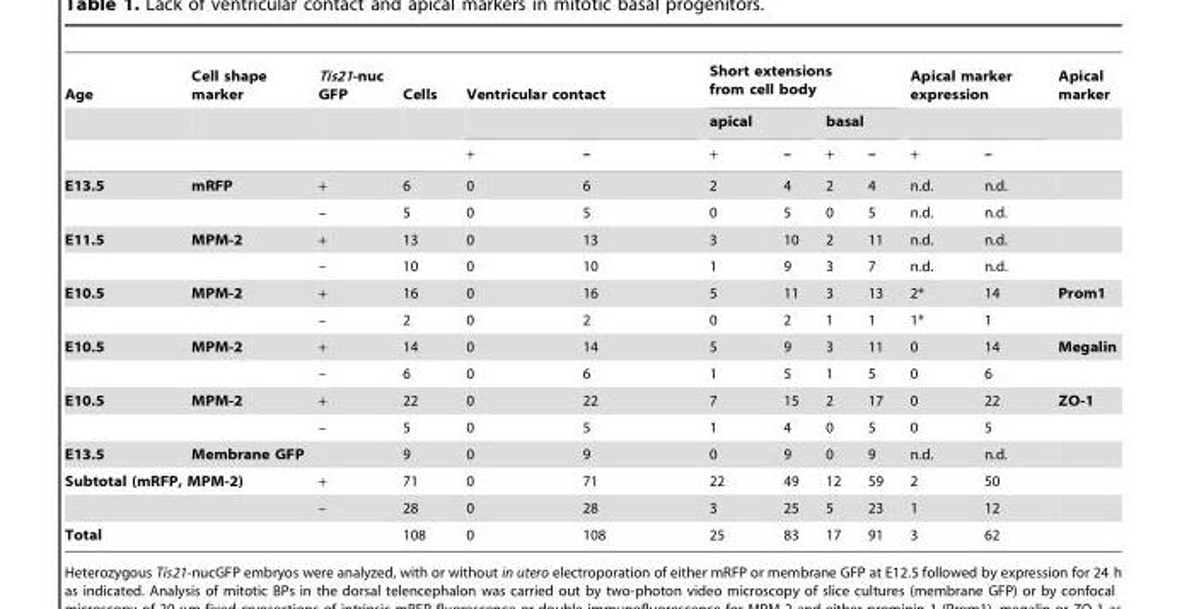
<table><thead><tr><td rowspan="3">Age</td><td rowspan="3">Cell shape marker</td><td rowspan="3">Tis21-nuc GFP</td><td rowspan="3">Cells</td><td colspan="2">Ventricular contact</td><td colspan="4">Short extensions from cell body</td><td colspan="2">Apical marker expression</td><td rowspan="3">Apical marker</td></tr><tr><td rowspan="2">+</td><td rowspan="2">–</td><td colspan="2">apical</td><td colspan="2">basal</td><td rowspan="2">+</td><td rowspan="2">–</td></tr><tr><td>+</td><td>–</td><td>+</td><td>–</td></tr></thead><tbody><tr><td rowspan="2">E13.5</td><td>mRFP</td><td>+</td><td>6</td><td>0</td><td>6</td><td>2</td><td>4</td><td>2</td><td>4</td><td>n.d.</td><td>n.d.</td><td></td></tr><tr><td></td><td>–</td><td>5</td><td>0</td><td>5</td><td>0</td><td>5</td><td>0</td><td>5</td><td>n.d.</td><td>n.d.</td><td></td></tr><tr><td rowspan="2">E11.5</td><td>MPM-2</td><td>+</td><td>13</td><td>0</td><td>13</td><td>3</td><td>10</td><td>2</td><td>11</td><td>n.d.</td><td>n.d.</td><td></td></tr><tr><td></td><td>–</td><td>10</td><td>0</td><td>10</td><td>1</td><td>9</td><td>3</td><td>7</td><td>n.d.</td><td>n.d.</td><td></td></tr><tr><td rowspan="2">E10.5</td><td>MPM-2</td><td>+</td><td>16</td><td>0</td><td>16</td><td>5</td><td>11</td><td>3</td><td>13</td><td>2*</td><td>14</td><td>Prom1</td></tr><tr><td></td><td>–</td><td>2</td><td>0</td><td>2</td><td>0</td><td>2</td><td>1</td><td>1</td><td>1*</td><td>1</td><td></td></tr><tr><td rowspan="2">E10.5</td><td>MPM-2</td><td>+</td><td>14</td><td>0</td><td>14</td><td>5</td><td>9</td><td>3</td><td>11</td><td>0</td><td>14</td><td>Megalin</td></tr><tr><td></td><td>–</td><td>6</td><td>0</td><td>6</td><td>1</td><td>5</td><td>1</td><td>5</td><td>0</td><td>6</td><td></td></tr><tr><td rowspan="2">E10.5</td><td>MPM-2</td><td>+</td><td>22</td><td>0</td><td>22</td><td>7</td><td>15</td><td>2</td><td>17</td><td>0</td><td>22</td><td>ZO-1</td></tr><tr><td></td><td>–</td><td>5</td><td>0</td><td>5</td><td>1</td><td>4</td><td>0</td><td>5</td><td>0</td><td>5</td><td></td></tr><tr><td>E13.5</td><td>Membrane GFP</td><td></td><td>9</td><td>0</td><td>9</td><td>0</td><td>9</td><td>0</td><td>9</td><td>n.d.</td><td>n.d.</td><td></td></tr><tr><td rowspan="2" colspan="2">Subtotal (mRFP, MPM-2)</td><td>+</td><td>71</td><td>0</td><td>71</td><td>22</td><td>49</td><td>12</td><td>59</td><td>2</td><td>50</td><td></td></tr><tr><td>–</td><td>28</td><td>0</td><td>28</td><td>3</td><td>25</td><td>5</td><td>23</td><td>1</td><td>12</td><td></td></tr><tr><td colspan="2">Total</td><td></td><td>108</td><td>0</td><td>108</td><td>25</td><td>83</td><td>17</td><td>91</td><td>3</td><td>62</td><td></td></tr></tbody></table>